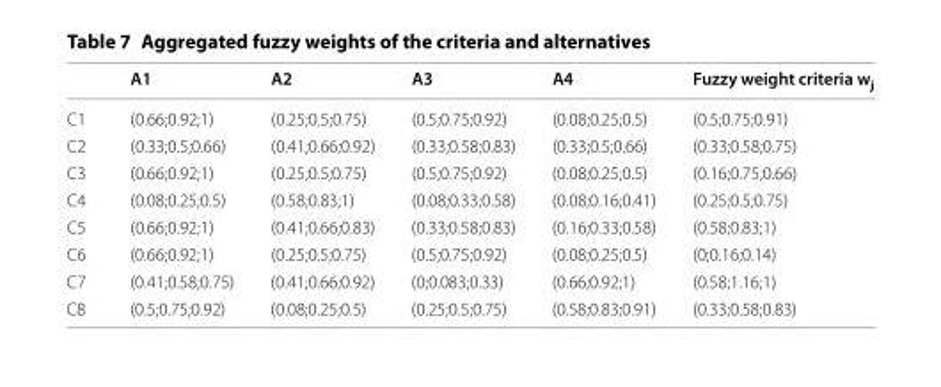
<table><thead><tr><td></td><td>A1</td><td>A2</td><td>A3</td><td>A4</td><td>Fuzzy weight criteria w<sub>j</sub></td></tr></thead><tbody><tr><td>C1</td><td>(0.66;0.92;1)</td><td>(0.25;0.5;0.75)</td><td>(0.5;0.75;0.92)</td><td>(0.08;0.25;0.5)</td><td>(0.5;0.75;0.91)</td></tr><tr><td>C2</td><td>(0.33;0.5;0.66)</td><td>(0.41;0.66;0.92)</td><td>(0.33;0.58;0.83)</td><td>(0.33;0.5;0.66)</td><td>(0.33;0.58;0.75)</td></tr><tr><td>C3</td><td>(0.66;0.92;1)</td><td>(0.25;0.5;0.75)</td><td>(0.5;0.75;0.92)</td><td>(0.08;0.25;0.5)</td><td>(0.16;0.75;0.66)</td></tr><tr><td>C4</td><td>(0.08;0.25;0.5)</td><td>(0.58;0.83;1)</td><td>(0.08;0.33;0.58)</td><td>(0.08;0.16;0.41)</td><td>(0.25;0.5;0.75)</td></tr><tr><td>C5</td><td>(0.66;0.92;1)</td><td>(0.41;0.66;0.83)</td><td>(0.33;0.58;0.83)</td><td>(0.16;0.33;0.58)</td><td>(0.58;0.83;1)</td></tr><tr><td>C6</td><td>(0.66;0.92;1)</td><td>(0.25;0.5;0.75)</td><td>(0.5;0.75;0.92)</td><td>(0.08;0.25;0.5)</td><td>(0;0.16;0.14)</td></tr><tr><td>C7</td><td>(0.41;0.58;0.75)</td><td>(0.41;0.66;0.92)</td><td>(0;0.083;0.33)</td><td>(0.66;0.92;1)</td><td>(0.58;1.16;1)</td></tr><tr><td>C8</td><td>(0.5;0.75;0.92)</td><td>(0.08;0.25;0.5)</td><td>(0.25;0.5;0.75)</td><td>(0.58;0.83;0.91)</td><td>(0.33;0.58;0.83)</td></tr></tbody></table>